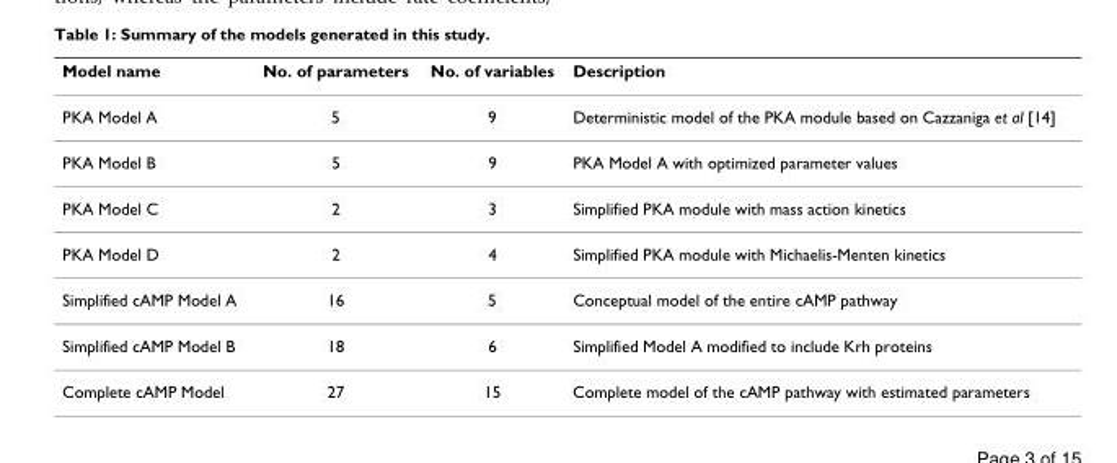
<table><thead><tr><td>Model name</td><td>No. of parameters</td><td>No. of variables</td><td>Description</td></tr></thead><tbody><tr><td>PKA Model A</td><td>5</td><td>9</td><td>Deterministic model of the PKA module based on Cazzaniga et al [14]</td></tr><tr><td>PKA Model B</td><td>5</td><td>9</td><td>PKA Model A with optimized parameter values</td></tr><tr><td>PKA Model C</td><td>2</td><td>3</td><td>Simplified PKA module with mass action kinetics</td></tr><tr><td>PKA Model D</td><td>2</td><td>4</td><td>Simplified PKA module with Michaelis-Menten kinetics</td></tr><tr><td>Simplified cAMP Model A</td><td>16</td><td>5</td><td>Conceptual model of the entire cAMP pathway</td></tr><tr><td>Simplified cAMP Model B</td><td>18</td><td>6</td><td>Simplified Model A modified to include Krh proteins</td></tr><tr><td>Complete cAMP Model</td><td>27</td><td>15</td><td>Complete model of the cAMP pathway with estimated parameters</td></tr></tbody></table>